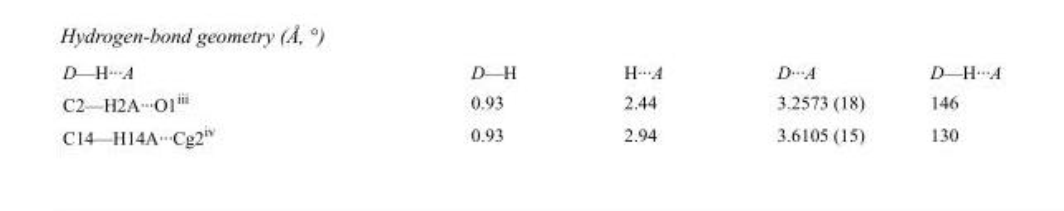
<table><tbody><tr><td>D—H···A</td><td>D—H</td><td>H···A</td><td>D···A</td><td>D—H···A</td></tr><tr><td>C2—H2A···O1<sup>iii</sup></td><td>0.93</td><td>2.44</td><td>3.2573 (18)</td><td>146</td></tr><tr><td>C14—H14A···Cg2<sup>iv</sup></td><td>0.93</td><td>2.94</td><td>3.6105 (15)</td><td>130</td></tr></tbody></table>